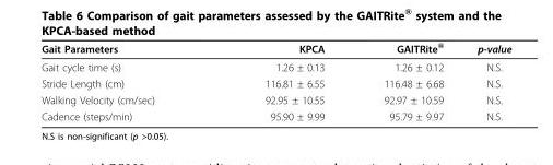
<table><thead><tr><td>Gait Parameters</td><td>KPCA</td><td>GAITRite<sup>®</sup></td><td>p-value</td></tr></thead><tbody><tr><td>Gait cycle time (s)</td><td>1.26 ± 0.13</td><td>1.26 ± 0.12</td><td>N.S.</td></tr><tr><td>Stride Length (cm)</td><td>116.81 ± 6.55</td><td>116.48 ± 6.68</td><td>N.S.</td></tr><tr><td>Walking Velocity (cm/sec)</td><td>92.95 ± 10.55</td><td>92.97 ± 10.59</td><td>N.S.</td></tr><tr><td>Cadence (steps/min)</td><td>95.90 ± 9.99</td><td>95.79 ± 9.97</td><td>N.S.</td></tr></tbody></table>